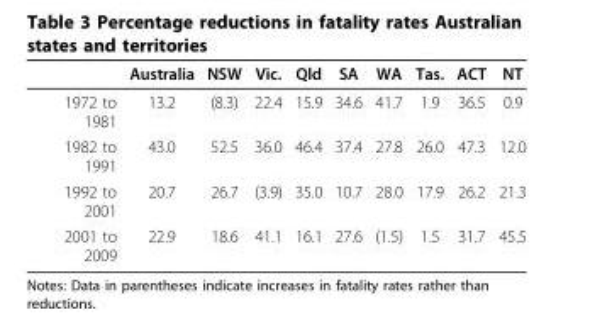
<table><thead><tr><td></td><td>Australia</td><td>NSW</td><td>Vic.</td><td>Qld</td><td>SA</td><td>WA</td><td>Tas.</td><td>ACT</td><td>NT</td></tr></thead><tbody><tr><td>1972 to 1981</td><td>13.2</td><td>(8.3)</td><td>22.4</td><td>15.9</td><td>34.6</td><td>41.7</td><td>1.9</td><td>36.5</td><td>0.9</td></tr><tr><td>1982 to 1991</td><td>43.0</td><td>52.5</td><td>36.0</td><td>46.4</td><td>37.4</td><td>27.8</td><td>26.0</td><td>47.3</td><td>12.0</td></tr><tr><td>1992 to 2001</td><td>20.7</td><td>26.7</td><td>(3.9)</td><td>35.0</td><td>10.7</td><td>28.0</td><td>17.9</td><td>26.2</td><td>21.3</td></tr><tr><td>2001 to 2009</td><td>22.9</td><td>18.6</td><td>41.1</td><td>16.1</td><td>27.6</td><td>(1.5)</td><td>1.5</td><td>31.7</td><td>45.5</td></tr></tbody></table>